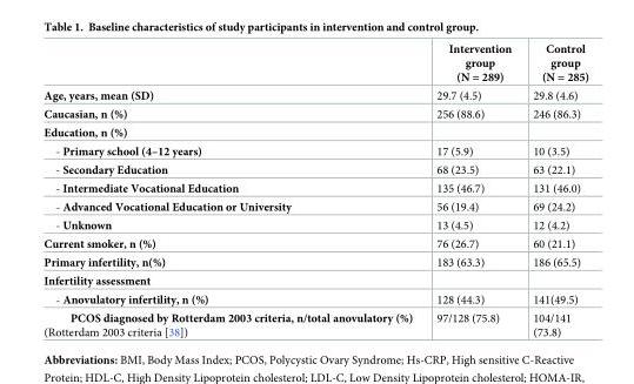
<table><thead><tr><td></td><td>Intervention group (N = 289)</td><td>Control group (N = 285)</td></tr></thead><tbody><tr><td>Age, years, mean (SD)</td><td>29.7 (4.5)</td><td>29.8 (4.6)</td></tr><tr><td>Caucasian, n (%)</td><td>256 (88.6)</td><td>246 (86.3)</td></tr><tr><td colspan="3">Education, n (%)</td></tr><tr><td>- Primary school (4–12 years)</td><td>17 (5.9)</td><td>10 (3.5)</td></tr><tr><td>- Secondary Education</td><td>68 (23.5)</td><td>63 (22.1)</td></tr><tr><td>- Intermediate Vocational Education</td><td>135 (46.7)</td><td>131 (46.0)</td></tr><tr><td>- Advanced Vocational Education or University</td><td>56 (19.4)</td><td>69 (24.2)</td></tr><tr><td>- Unknown</td><td>13 (4.5)</td><td>12 (4.2)</td></tr><tr><td>Current smoker, n (%)</td><td>76 (26.7)</td><td>60 (21.1)</td></tr><tr><td>Primary infertility, n(%)</td><td>183 (63.3)</td><td>186 (65.5)</td></tr><tr><td colspan="3">Infertility assessment</td></tr><tr><td>- Anovulatory infertility, n (%)</td><td>128 (44.3)</td><td>141(49.5)</td></tr><tr><td>PCOS diagnosed by Rotterdam 2003 criteria, n/total anovulatory (%) (Rotterdam 2003 criteria [38])</td><td>97/128 (75.8)</td><td>104/141 (73.8)</td></tr></tbody></table>